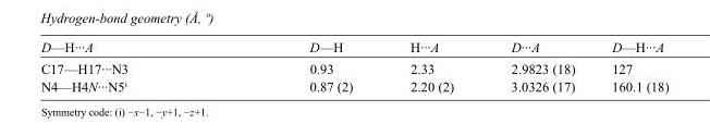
<table><tbody><tr><td>D—H···A</td><td>D—H</td><td>H···A</td><td>D···A</td><td>D—H···A</td></tr><tr><td>C17—H17···N3</td><td>0.93</td><td>2.33</td><td>2.9823 (18)</td><td>127</td></tr><tr><td>N4—H4N···N5<sup>i</sup></td><td>0.87 (2)</td><td>2.20 (2)</td><td>3.0326 (17)</td><td>160.1 (18)</td></tr></tbody></table>